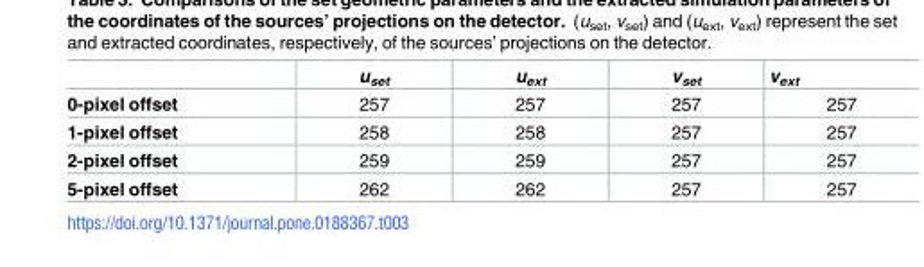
<table><thead><tr><td></td><td>u<sub>set</sub></td><td>u<sub>ext</sub></td><td>v<sub>set</sub></td><td>v<sub>ext</sub></td></tr></thead><tbody><tr><td>0-pixel offset</td><td>257</td><td>257</td><td>257</td><td>257</td></tr><tr><td>1-pixel offset</td><td>258</td><td>258</td><td>257</td><td>257</td></tr><tr><td>2-pixel offset</td><td>259</td><td>259</td><td>257</td><td>257</td></tr><tr><td>5-pixel offset</td><td>262</td><td>262</td><td>257</td><td>257</td></tr></tbody></table>